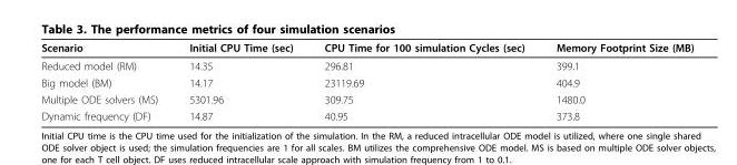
<table><thead><tr><td>Scenario</td><td>Initial CPU Time (sec)</td><td>CPU Time for 100 simulation Cycles (sec)</td><td>Memory Footprint Size (MB)</td></tr></thead><tbody><tr><td>Reduced model (RM)</td><td>14.35</td><td>296.81</td><td>399.1</td></tr><tr><td>Big model (BM)</td><td>14.17</td><td>23119.69</td><td>404.9</td></tr><tr><td>Multiple ODE solvers (MS)</td><td>5301.96</td><td>309.75</td><td>1480.0</td></tr><tr><td>Dynamic frequency (DF)</td><td>14.87</td><td>40.95</td><td>373.8</td></tr></tbody></table>